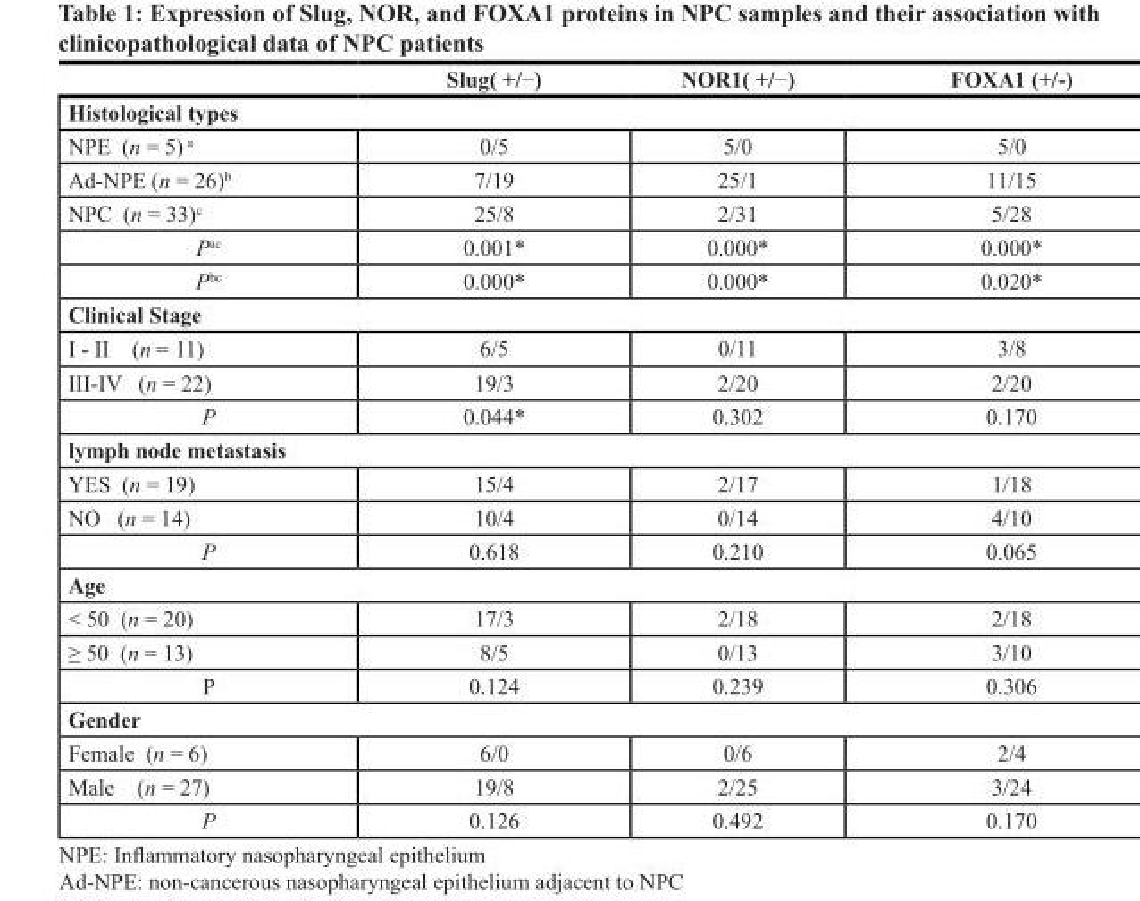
<table><thead><tr><td></td><td>Slug( +/−)</td><td>NOR1( +/−)</td><td>FOXA1 (+/-)</td></tr></thead><tbody><tr><td colspan="4">Histological types</td></tr><tr><td>NPE (n = 5) <sup>a</sup></td><td>0/5</td><td>5/0</td><td>5/0</td></tr><tr><td>Ad-NPE (n = 26)<sup>b</sup></td><td>7/19</td><td>25/1</td><td>11/15</td></tr><tr><td>NPC (n = 33)<sup>c</sup></td><td>25/8</td><td>2/31</td><td>5/28</td></tr><tr><td>P<sup>ac</sup></td><td>0.001*</td><td>0.000*</td><td>0.000*</td></tr><tr><td>P<sup>bc</sup></td><td>0.000*</td><td>0.000*</td><td>0.020*</td></tr><tr><td colspan="4">Clinical Stage</td></tr><tr><td>I - II (n = 11)</td><td>6/5</td><td>0/11</td><td>3/8</td></tr><tr><td>III-IV (n = 22)</td><td>19/3</td><td>2/20</td><td>2/20</td></tr><tr><td>P</td><td>0.044*</td><td>0.302</td><td>0.170</td></tr><tr><td colspan="4">lymph node metastasis</td></tr><tr><td>YES (n = 19)</td><td>15/4</td><td>2/17</td><td>1/18</td></tr><tr><td>NO (n = 14)</td><td>10/4</td><td>0/14</td><td>4/10</td></tr><tr><td>P</td><td>0.618</td><td>0.210</td><td>0.065</td></tr><tr><td colspan="4">Age</td></tr><tr><td>&lt; 50 (n = 20)</td><td>17/3</td><td>2/18</td><td>2/18</td></tr><tr><td>≥ 50 (n = 13)</td><td>8/5</td><td>0/13</td><td>3/10</td></tr><tr><td>P</td><td>0.124</td><td>0.239</td><td>0.306</td></tr><tr><td colspan="4">Gender</td></tr><tr><td>Female (n = 6)</td><td>6/0</td><td>0/6</td><td>2/4</td></tr><tr><td>Male (n = 27)</td><td>19/8</td><td>2/25</td><td>3/24</td></tr><tr><td>P</td><td>0.126</td><td>0.492</td><td>0.170</td></tr></tbody></table>